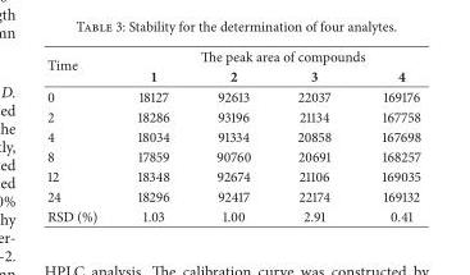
<table><thead><tr><td rowspan="2">Time</td><td colspan="4">The peak area of compounds</td></tr><tr><td>1</td><td>2</td><td>3</td><td>4</td></tr></thead><tbody><tr><td>0</td><td>18127</td><td>92613</td><td>22037</td><td>169176</td></tr><tr><td>2</td><td>18286</td><td>93196</td><td>21134</td><td>167758</td></tr><tr><td>4</td><td>18034</td><td>91334</td><td>20858</td><td>167698</td></tr><tr><td>8</td><td>17859</td><td>90760</td><td>20691</td><td>168257</td></tr><tr><td>12</td><td>18348</td><td>92674</td><td>21106</td><td>169035</td></tr><tr><td>24</td><td>18296</td><td>92417</td><td>22174</td><td>169132</td></tr><tr><td>RSD (%)</td><td>1.03</td><td>1.00</td><td>2.91</td><td>0.41</td></tr></tbody></table>